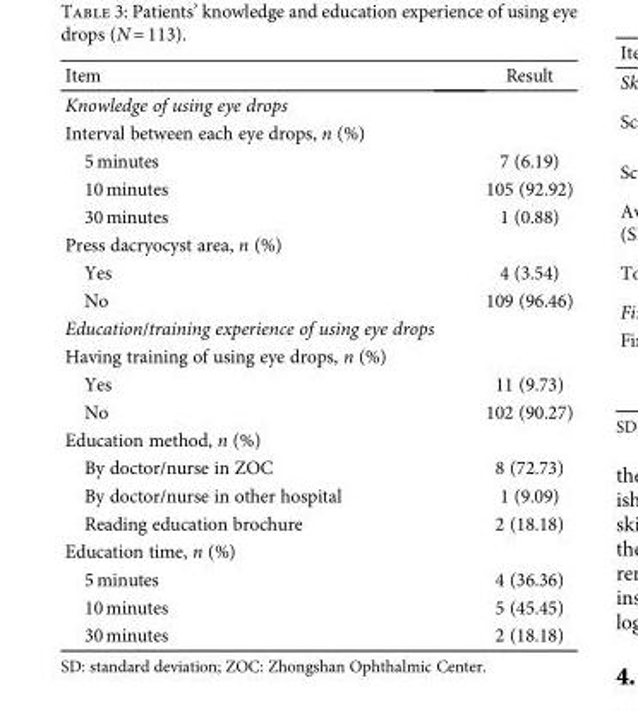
<table><thead><tr><td>Item</td><td>Result</td></tr></thead><tbody><tr><td colspan="2">Knowledge of using eye drops</td></tr><tr><td colspan="2">Interval between each eye drops, n (%)</td></tr><tr><td>5 minutes</td><td>7 (6.19)</td></tr><tr><td>10 minutes</td><td>105 (92.92)</td></tr><tr><td>30 minutes</td><td>1 (0.88)</td></tr><tr><td colspan="2">Press dacryocyst area, n (%)</td></tr><tr><td>Yes</td><td>4 (3.54)</td></tr><tr><td>No</td><td>109 (96.46)</td></tr><tr><td colspan="2">Education/training experience of using eye drops</td></tr><tr><td colspan="2">Having training of using eye drops, n (%)</td></tr><tr><td>Yes</td><td>11 (9.73)</td></tr><tr><td>No</td><td>102 (90.27)</td></tr><tr><td colspan="2">Education method, n (%)</td></tr><tr><td>By doctor/nurse in ZOC</td><td>8 (72.73)</td></tr><tr><td>By doctor/nurse in other hospital</td><td>1 (9.09)</td></tr><tr><td>Reading education brochure</td><td>2 (18.18)</td></tr><tr><td colspan="2">Education time, n (%)</td></tr><tr><td>5 minutes</td><td>4 (36.36)</td></tr><tr><td>10 minutes</td><td>5 (45.45)</td></tr><tr><td>30 minutes</td><td>2 (18.18)</td></tr></tbody></table>